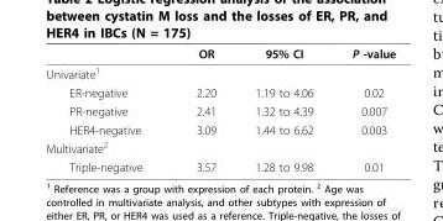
<table><thead><tr><td></td><td>OR</td><td>95% CI</td><td>P -value</td></tr></thead><tbody><tr><td colspan="4">Univariate<sup>1</sup></td></tr><tr><td>ER-negative</td><td>2.20</td><td>1.19 to 4.06</td><td>0.02</td></tr><tr><td>PR-negative</td><td>2.41</td><td>1.32 to 4.39</td><td>0.007</td></tr><tr><td>HER4-negative</td><td>3.09</td><td>1.44 to 6.62</td><td>0.003</td></tr><tr><td colspan="4">Multivariate<sup>2</sup></td></tr><tr><td>Triple-negative</td><td>3.57</td><td>1.28 to 9.98</td><td>0.01</td></tr></tbody></table>